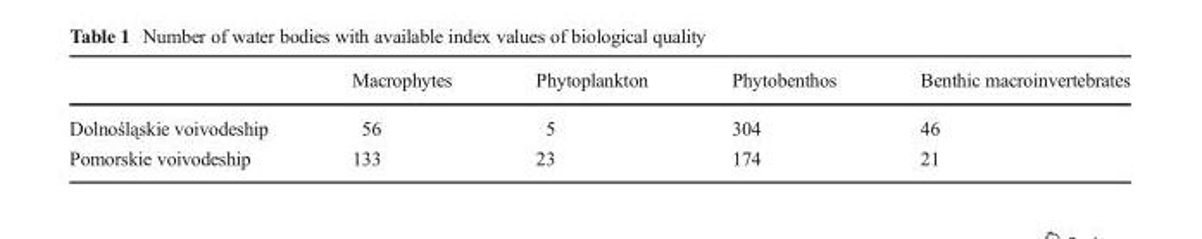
<table><thead><tr><td></td><td>Macrophytes</td><td>Phytoplankton</td><td>Phytobenthos</td><td>Benthic macroinvertebrates</td></tr></thead><tbody><tr><td>Dolnośląskie voivodeship</td><td>56</td><td>5</td><td>304</td><td>46</td></tr><tr><td>Pomorskie voivodeship</td><td>133</td><td>23</td><td>174</td><td>21</td></tr></tbody></table>